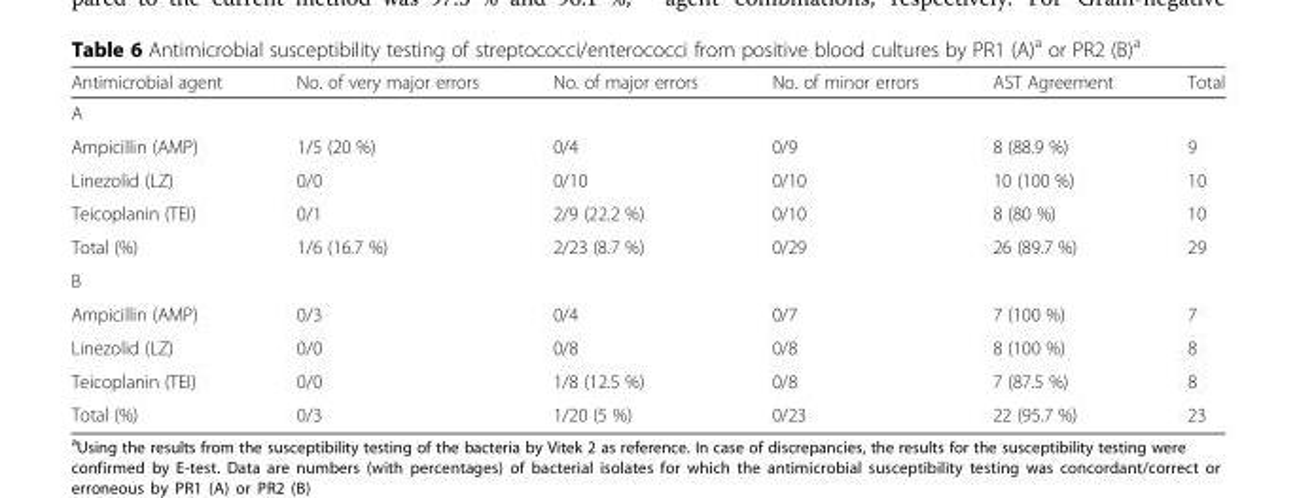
<table><thead><tr><td>Antimicrobial agent</td><td>No. of very major errors</td><td>No. of major errors</td><td>No. of minor errors</td><td>AST Agreement</td><td>Total</td></tr></thead><tbody><tr><td colspan="6">A</td></tr><tr><td>Ampicillin (AMP)</td><td>1/5 (20 %)</td><td>0/4</td><td>0/9</td><td>8 (88.9 %)</td><td>9</td></tr><tr><td>Linezolid (LZ)</td><td>0/0</td><td>0/10</td><td>0/10</td><td>10 (100 %)</td><td>10</td></tr><tr><td>Teicoplanin (TEI)</td><td>0/1</td><td>2/9 (22.2 %)</td><td>0/10</td><td>8 (80 %)</td><td>10</td></tr><tr><td>Total (%)</td><td>1/6 (16.7 %)</td><td>2/23 (8.7 %)</td><td>0/29</td><td>26 (89.7 %)</td><td>29</td></tr><tr><td colspan="6">B</td></tr><tr><td>Ampicillin (AMP)</td><td>0/3</td><td>0/4</td><td>0/7</td><td>7 (100 %)</td><td>7</td></tr><tr><td>Linezolid (LZ)</td><td>0/0</td><td>0/8</td><td>0/8</td><td>8 (100 %)</td><td>8</td></tr><tr><td>Teicoplanin (TEI)</td><td>0/0</td><td>1/8 (12.5 %)</td><td>0/8</td><td>7 (87.5 %)</td><td>8</td></tr><tr><td>Total (%)</td><td>0/3</td><td>1/20 (5 %)</td><td>0/23</td><td>22 (95.7 %)</td><td>23</td></tr></tbody></table>